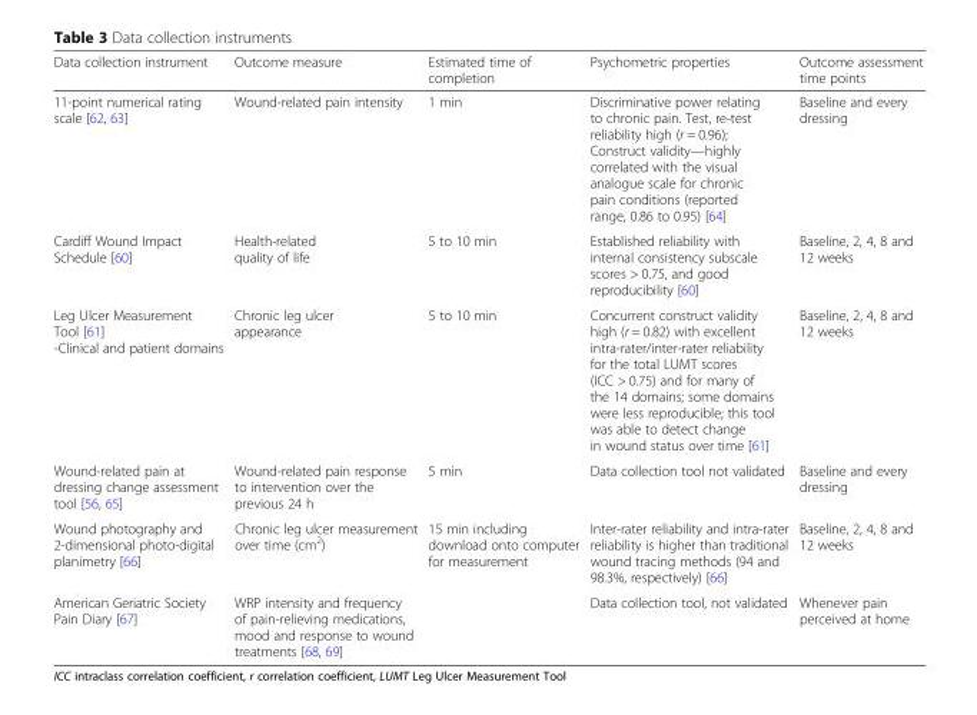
<table><thead><tr><td>Data collection instrument</td><td>Outcome measure</td><td>Estimated time of completion</td><td>Psychometric properties</td><td>Outcome assessment time points</td></tr></thead><tbody><tr><td>11-point numerical rating scale [62, 63]</td><td>Wound-related pain intensity</td><td>1 min</td><td>Discriminative power relating to chronic pain. Test, re-test reliability high (r = 0.96); Construct validity—highly correlated with the visual analogue scale for chronic pain conditions (reported range, 0.86 to 0.95) [64]</td><td>Baseline and every dressing</td></tr><tr><td>Cardiff Wound Impact Schedule [60]</td><td>Health-related quality of life</td><td>5 to 10 min</td><td>Established reliability with internal consistency subscale scores &gt; 0.75, and good reproducibility [60]</td><td>Baseline, 2, 4, 8 and 12 weeks</td></tr><tr><td>Leg Ulcer Measurement Tool [61] -Clinical and patient domains</td><td>Chronic leg ulcer appearance</td><td>5 to 10 min</td><td>Concurrent construct validity high (r = 0.82) with excellent intra-rater/inter-rater reliability for the total LUMT scores (ICC &gt; 0.75) and for many of the 14 domains; some domains were less reproducible; this tool was able to detect change in wound status over time [61]</td><td>Baseline, 2, 4, 8 and 12 weeks</td></tr><tr><td>Wound-related pain at dressing change assessment tool [56, 65]</td><td>Wound-related pain response to intervention over the previous 24 h</td><td>5 min</td><td>Data collection tool not validated</td><td>Baseline and every dressing</td></tr><tr><td>Wound photography and 2-dimensional photo-digital planimetry [66]</td><td>Chronic leg ulcer measurement over time (cm<sup>2</sup>)</td><td>15 min including download onto computer for measurement</td><td>Inter-rater reliability and intra-rater reliability is higher than traditional wound tracing methods (94 and 98.3%, respectively) [66]</td><td>Baseline, 2, 4, 8 and 12 weeks</td></tr><tr><td>American Geriatric Society Pain Diary [67]</td><td>WRP intensity and frequency of pain-relieving medications, mood and response to wound treatments [68, 69]</td><td></td><td>Data collection tool, not validated</td><td>Whenever pain perceived at home</td></tr></tbody></table>